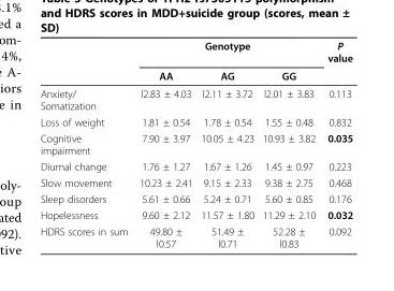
<table><thead><tr><td rowspan="2"></td><td colspan="3">Genotype</td><td rowspan="2">P value</td></tr><tr><td>AA</td><td>AG</td><td>GG</td></tr></thead><tbody><tr><td>Anxiety/ Somatization</td><td>l2.83 ± 4.03</td><td>l2.11 ± 3.72</td><td>l2.01 ± 3.83</td><td>0.113</td></tr><tr><td>Loss of weight</td><td>1.81 ± 0.54</td><td>1.78 ± 0.54</td><td>1.55 ± 0.48</td><td>0.832</td></tr><tr><td>Cognitive impairment</td><td>7.90 ± 3.97</td><td>10.05 ± 4.23</td><td>10.93 ± 3.82</td><td>0.035</td></tr><tr><td>Diurnal change</td><td>1.76 ± 1.27</td><td>1.67 ± 1.26</td><td>1.45 ± 0.97</td><td>0.223</td></tr><tr><td>Slow movement</td><td>10.23 ± 2.41</td><td>9.15 ± 2.33</td><td>9.38 ± 2.75</td><td>0.468</td></tr><tr><td>Sleep disorders</td><td>5.61 ± 0.66</td><td>5.24 ± 0.71</td><td>5.60 ± 0.85</td><td>0.176</td></tr><tr><td>Hopelessness</td><td>9.60 ± 2.12</td><td>11.57 ± 1.80</td><td>11.29 ± 2.10</td><td>0.032</td></tr><tr><td>HDRS scores in sum</td><td>49.80 ± l0.57</td><td>51.49 ± l0.71</td><td>52.28 ± l0.83</td><td>0.092</td></tr></tbody></table>